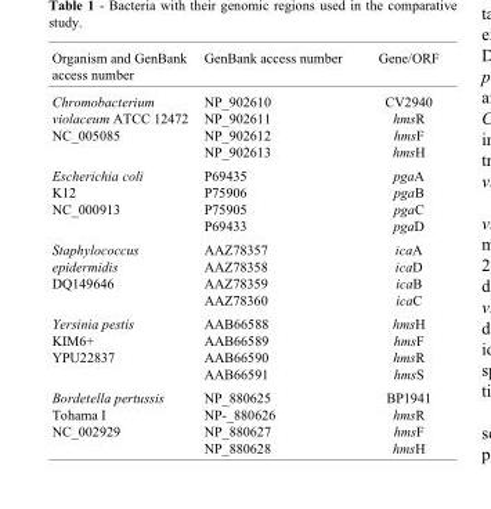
<table><thead><tr><td>Organism and GenBank access number</td><td>GenBank access number</td><td>Gene/ORF</td></tr></thead><tbody><tr><td>Chromobacterium violaceum ATCC 12472 NC_005085</td><td>NP_902610 NP_902611 NP_902612 NP_902613</td><td>CV2940 hmsR hmsF hmsH</td></tr><tr><td>Escherichia coli K12 NC_000913</td><td>P69435 P75906 P75905 P69433</td><td>pgaA pgaB pgaC pgaD</td></tr><tr><td>Staphylococcus epidermidis DQ149646</td><td>AAZ78357 AAZ78358 AAZ78359 AAZ78360</td><td>icaA icaD icaB icaC</td></tr><tr><td>Yersinia pestis KIM6+ YPU22837</td><td>AAB66588 AAB66589 AAB66590 AAB66591</td><td>hmsH hmsF hmsR hmsS</td></tr><tr><td>Bordetella pertussis Tohama I NC_002929</td><td>NP_880625 NP-_880626 NP_880627 NP_880628</td><td>BP1941 hmsR hmsF hmsH</td></tr></tbody></table>